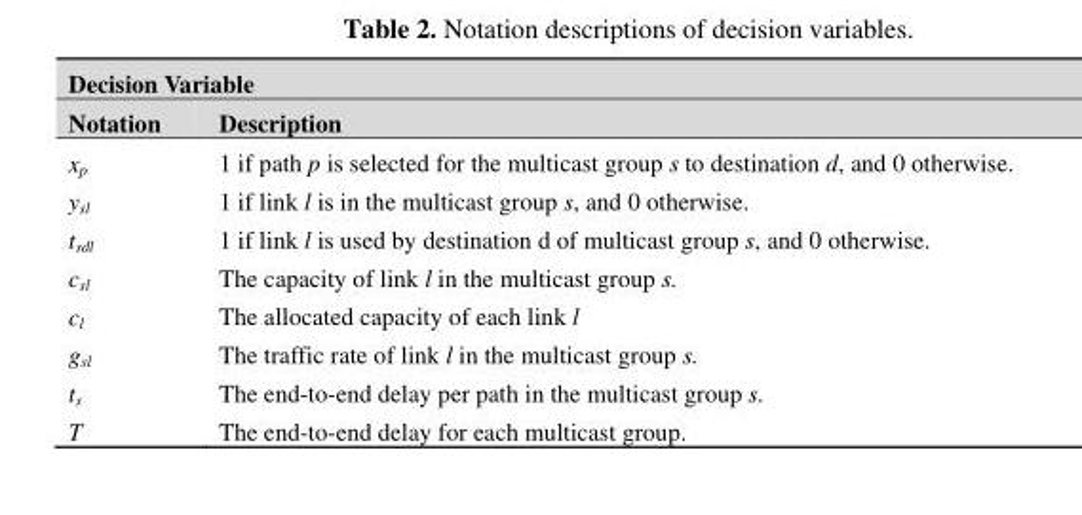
<table><thead><tr><td colspan="2">Decision Variable</td></tr><tr><td>Notation</td><td>Description</td></tr></thead><tbody><tr><td><sub>x</sub>p</td><td>1 if path p is selected for the multicast group s to destination d, and 0 otherwise.</td></tr><tr><td><sub>y</sub>sl</td><td>1 if link l is in the multicast group s, and 0 otherwise.</td></tr><tr><td><sub>t</sub>sdl</td><td>1 if link l is used by destination d of multicast group s, and 0 otherwise.</td></tr><tr><td><sub>c</sub>sl</td><td>The capacity of link l in the multicast group s.</td></tr><tr><td><sub>c</sub>l</td><td>The allocated capacity of each link l</td></tr><tr><td><sub>g</sub>sl</td><td>The traffic rate of link l in the multicast group s.</td></tr><tr><td><sub>t</sub>s</td><td>The end-to-end delay per path in the multicast group s.</td></tr><tr><td><sub>T</sub></td><td>The end-to-end delay for each multicast group.</td></tr></tbody></table>